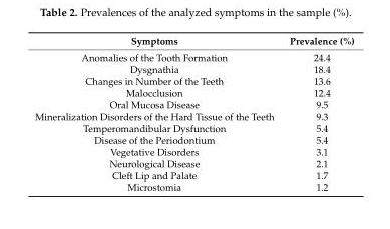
<table><thead><tr><td>Symptoms</td><td>Prevalence (%)</td></tr></thead><tbody><tr><td>Anomalies of the Tooth Formation</td><td>24.4</td></tr><tr><td>Dysgnathia</td><td>18.4</td></tr><tr><td>Changes in Number of the Teeth</td><td>13.6</td></tr><tr><td>Malocclusion</td><td>12.4</td></tr><tr><td>Oral Mucosa Disease</td><td>9.5</td></tr><tr><td>Mineralization Disorders of the Hard Tissue of the Teeth</td><td>9.3</td></tr><tr><td>Temperomandibular Dysfunction</td><td>5.4</td></tr><tr><td>Disease of the Periodontium</td><td>5.4</td></tr><tr><td>Vegetative Disorders</td><td>3.1</td></tr><tr><td>Neurological Disease</td><td>2.1</td></tr><tr><td>Cleft Lip and Palate</td><td>1.7</td></tr><tr><td>Microstomia</td><td>1.2</td></tr></tbody></table>